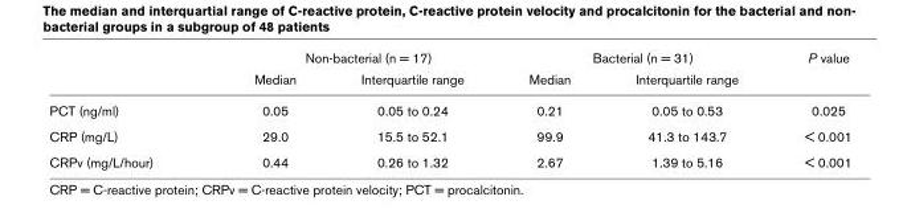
<table><thead><tr><td rowspan="2"></td><td colspan="2">Non-bacterial (n = 17)</td><td colspan="2">Bacterial (n = 31)</td><td rowspan="2">P value</td></tr><tr><td>Median</td><td>Interquartile range</td><td>Median</td><td>Interquartile range</td></tr></thead><tbody><tr><td>PCT (ng/ml)</td><td>0.05</td><td>0.05 to 0.24</td><td>0.21</td><td>0.05 to 0.53</td><td>0.025</td></tr><tr><td>CRP (mg/L)</td><td>29.0</td><td>15.5 to 52.1</td><td>99.9</td><td>41.3 to 143.7</td><td>&lt; 0.001</td></tr><tr><td>CRPv (mg/L/hour)</td><td>0.44</td><td>0.26 to 1.32</td><td>2.67</td><td>1.39 to 5.16</td><td>&lt; 0.001</td></tr></tbody></table>